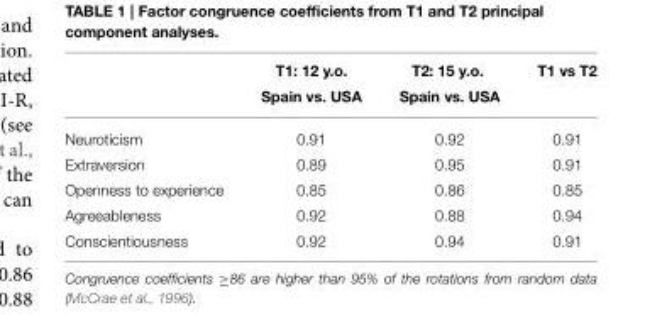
<table><thead><tr><td rowspan="2"></td><td rowspan="2">T1: 12 y.o. Spain vs. USA</td><td rowspan="2">T2: 15 y.o. Spain vs. USA</td><td rowspan="2">T1 vs T2</td></tr><tr></tr></thead><tbody><tr><td>Neuroticism</td><td>0.91</td><td>0.92</td><td>0.91</td></tr><tr><td>Extraversion</td><td>0.89</td><td>0.95</td><td>0.91</td></tr><tr><td>Openness to experience</td><td>0.85</td><td>0.86</td><td>0.85</td></tr><tr><td>Agreeableness</td><td>0.92</td><td>0.88</td><td>0.94</td></tr><tr><td>Conscientiousness</td><td>0.92</td><td>0.94</td><td>0.91</td></tr></tbody></table>